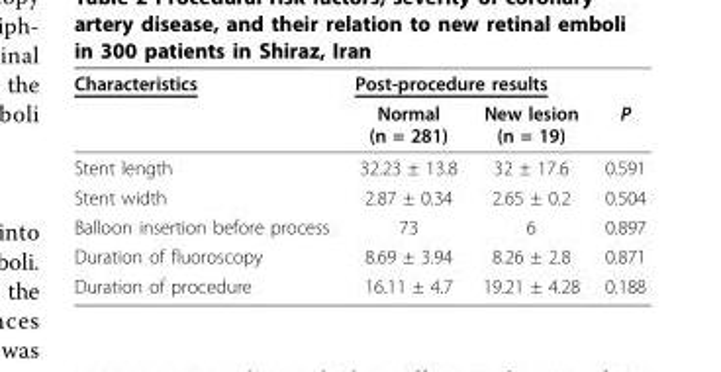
<table><thead><tr><td rowspan="2">Characteristics</td><td colspan="3">Post-procedure results</td></tr><tr><td>Normal (n = 281)</td><td>New lesion (n = 19)</td><td>P</td></tr></thead><tbody><tr><td>Stent length</td><td>32.23 ± 13.8</td><td>32 ± 17.6</td><td>0.591</td></tr><tr><td>Stent width</td><td>2.87 ± 0.34</td><td>2.65 ± 0.2</td><td>0.504</td></tr><tr><td>Balloon insertion before process</td><td>73</td><td>6</td><td>0.897</td></tr><tr><td>Duration of fluoroscopy</td><td>8.69 ± 3.94</td><td>8.26 ± 2.8</td><td>0.871</td></tr><tr><td>Duration of procedure</td><td>16.11 ± 4.7</td><td>19.21 ± 4.28</td><td>0.188</td></tr></tbody></table>